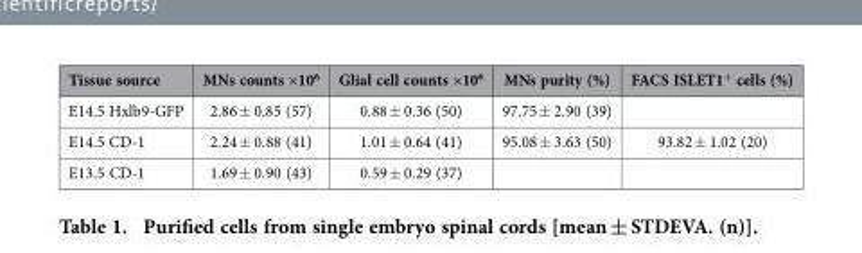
<table><thead><tr><td>Tissue source</td><td>MNs counts ×10<sup>6</sup></td><td>Glial cell counts ×10<sup>6</sup></td><td>MNs purity (%)</td><td>FACS ISLET1<sup>+</sup> cells (%)</td></tr></thead><tbody><tr><td>E14.5 Hxlb9-GFP</td><td>2.86 ± 0.85 (57)</td><td>0.88 ± 0.36 (50)</td><td>97.75 ± 2.90 (39)</td><td></td></tr><tr><td>E14.5 CD-1</td><td>2.24 ± 0.88 (41)</td><td>1.01 ± 0.64 (41)</td><td>95.08 ± 3.63 (50)</td><td>93.82 ± 1.02 (20)</td></tr><tr><td>E13.5 CD-1</td><td>1.69 ± 0.90 (43)</td><td>0.59 ± 0.29 (37)</td><td></td><td></td></tr></tbody></table>